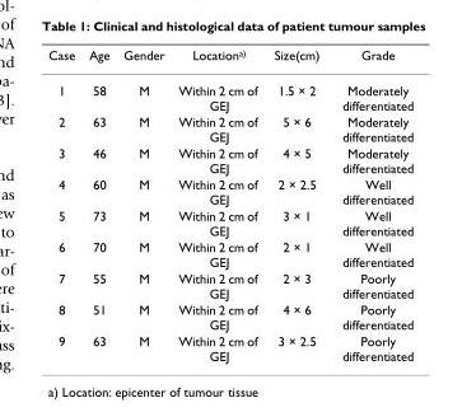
<table><thead><tr><td>Case</td><td>Age</td><td>Gender</td><td>Location<sup>a)</sup></td><td>Size(cm)</td><td>Grade</td></tr></thead><tbody><tr><td>1</td><td>58</td><td>M</td><td>Within 2 cm of GEJ</td><td>1.5 × 2</td><td>Moderately differentiated</td></tr><tr><td>2</td><td>63</td><td>M</td><td>Within 2 cm of GEJ</td><td>5 × 6</td><td>Moderately differentiated</td></tr><tr><td>3</td><td>46</td><td>M</td><td>Within 2 cm of GEJ</td><td>4 × 5</td><td>Moderately differentiated</td></tr><tr><td>4</td><td>60</td><td>M</td><td>Within 2 cm of GEJ</td><td>2 × 2.5</td><td>Well differentiated</td></tr><tr><td>5</td><td>73</td><td>M</td><td>Within 2 cm of GEJ</td><td>3 × 1</td><td>Well differentiated</td></tr><tr><td>6</td><td>70</td><td>M</td><td>Within 2 cm of GEJ</td><td>2 × 1</td><td>Well differentiated</td></tr><tr><td>7</td><td>55</td><td>M</td><td>Within 2 cm of GEJ</td><td>2 × 3</td><td>Poorly differentiated</td></tr><tr><td>8</td><td>51</td><td>M</td><td>Within 2 cm of GEJ</td><td>4 × 6</td><td>Poorly differentiated</td></tr><tr><td>9</td><td>63</td><td>M</td><td>Within 2 cm of GEJ</td><td>3 × 2.5</td><td>Poorly differentiated</td></tr></tbody></table>